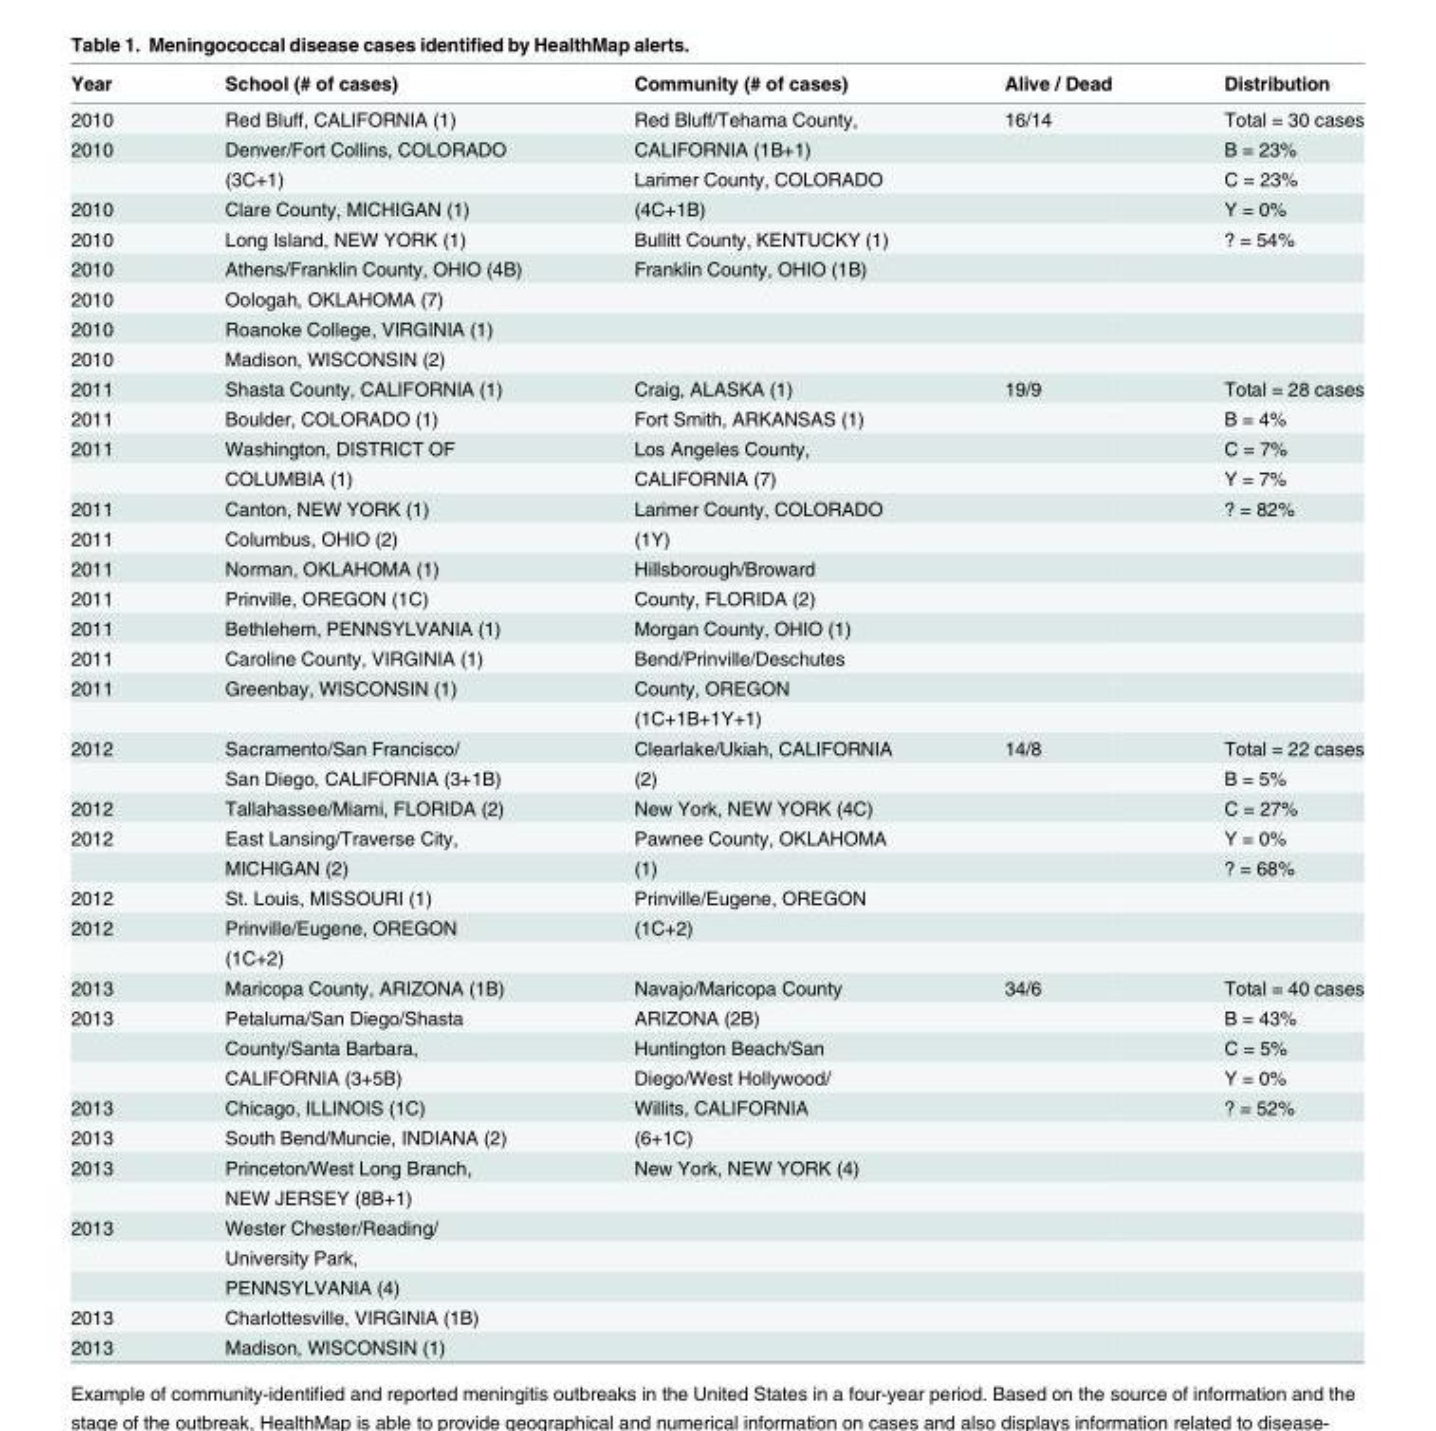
<table><thead><tr><td>Year</td><td>School (# of cases)</td><td>Community (# of cases)</td><td>Alive / Dead</td><td>Distribution</td></tr></thead><tbody><tr><td>2010</td><td>Red Bluff, CALIFORNIA (1)</td><td>Red Bluff/Tehama County,</td><td>16/14</td><td>Total = 30 cases</td></tr><tr><td rowspan="2">2010</td><td>Denver/Fort Collins, COLORADO</td><td>CALIFORNIA (1B+1)</td><td></td><td>B = 23%</td></tr><tr><td>(3C+1)</td><td>Larimer County, COLORADO</td><td></td><td>C = 23%</td></tr><tr><td>2010</td><td>Clare County, MICHIGAN (1)</td><td>(4C+1B)</td><td></td><td>Y = 0%</td></tr><tr><td>2010</td><td>Long Island, NEW YORK (1)</td><td>Bullitt County, KENTUCKY (1)</td><td></td><td>? = 54%</td></tr><tr><td>2010</td><td>Athens/Franklin County, OHIO (4B)</td><td>Franklin County, OHIO (1B)</td><td></td><td></td></tr><tr><td>2010</td><td>Oologah, OKLAHOMA (7)</td><td></td><td></td><td></td></tr><tr><td>2010</td><td>Roanoke College, VIRGINIA (1)</td><td></td><td></td><td></td></tr><tr><td>2010</td><td>Madison, WISCONSIN (2)</td><td></td><td></td><td></td></tr><tr><td>2011</td><td>Shasta County, CALIFORNIA (1)</td><td>Craig, ALASKA (1)</td><td>19/9</td><td>Total = 28 cases</td></tr><tr><td>2011</td><td>Boulder, COLORADO (1)</td><td>Fort Smith, ARKANSAS (1)</td><td></td><td>B = 4%</td></tr><tr><td rowspan="2">2011</td><td>Washington, DISTRICT OF</td><td>Los Angeles County,</td><td></td><td>C = 7%</td></tr><tr><td>COLUMBIA (1)</td><td>CALIFORNIA (7)</td><td></td><td>Y = 7%</td></tr><tr><td>2011</td><td>Canton, NEW YORK (1)</td><td>Larimer County, COLORADO</td><td></td><td>? = 82%</td></tr><tr><td>2011</td><td>Columbus, OHIO (2)</td><td>(1Y)</td><td></td><td></td></tr><tr><td>2011</td><td>Norman, OKLAHOMA (1)</td><td>Hillsborough/Broward</td><td></td><td></td></tr><tr><td>2011</td><td>Prinville, OREGON (1C)</td><td>County, FLORIDA (2)</td><td></td><td></td></tr><tr><td>2011</td><td>Bethlehem, PENNSYLVANIA (1)</td><td>Morgan County, OHIO (1)</td><td></td><td></td></tr><tr><td>2011</td><td>Caroline County, VIRGINIA (1)</td><td>Bend/Prinville/Deschutes</td><td></td><td></td></tr><tr><td rowspan="2">2011</td><td>Greenbay, WISCONSIN (1)</td><td>County, OREGON</td><td></td><td></td></tr><tr><td></td><td>(1C+1B+1Y+1)</td><td></td><td></td></tr><tr><td rowspan="2">2012</td><td>Sacramento/San Francisco/</td><td>Clearlake/Ukiah, CALIFORNIA</td><td>14/8</td><td>Total = 22 cases</td></tr><tr><td>San Diego, CALIFORNIA (3+1B)</td><td>(2)</td><td></td><td>B = 5%</td></tr><tr><td>2012</td><td>Tallahassee/Miami, FLORIDA (2)</td><td>New York, NEW YORK (4C)</td><td></td><td>C = 27%</td></tr><tr><td rowspan="2">2012</td><td>East Lansing/Traverse City,</td><td>Pawnee County, OKLAHOMA</td><td></td><td>Y = 0%</td></tr><tr><td>MICHIGAN (2)</td><td>(1)</td><td></td><td>? = 68%</td></tr><tr><td>2012</td><td>St. Louis, MISSOURI (1)</td><td>Prinville/Eugene, OREGON</td><td></td><td></td></tr><tr><td rowspan="2">2012</td><td>Prinville/Eugene, OREGON</td><td>(1C+2)</td><td></td><td></td></tr><tr><td>(1C+2)</td><td></td><td></td><td></td></tr><tr><td>2013</td><td>Maricopa County, ARIZONA (1B)</td><td>Navajo/Maricopa County</td><td>34/6</td><td>Total = 40 cases</td></tr><tr><td rowspan="3">2013</td><td>Petaluma/San Diego/Shasta</td><td>ARIZONA (2B)</td><td></td><td>B = 43%</td></tr><tr><td>County/Santa Barbara,</td><td>Huntington Beach/San</td><td></td><td>C = 5%</td></tr><tr><td>CALIFORNIA (3+5B)</td><td>Diego/West Hollywood/</td><td></td><td>Y = 0%</td></tr><tr><td>2013</td><td>Chicago, ILLINOIS (1C)</td><td>Willits, CALIFORNIA</td><td></td><td>? = 52%</td></tr><tr><td>2013</td><td>South Bend/Muncie, INDIANA (2)</td><td>(6+1C)</td><td></td><td></td></tr><tr><td rowspan="2">2013</td><td>Princeton/West Long Branch,</td><td>New York, NEW YORK (4)</td><td></td><td></td></tr><tr><td>NEW JERSEY (8B+1)</td><td></td><td></td><td></td></tr><tr><td rowspan="3">2013</td><td>Wester Chester/Reading/</td><td></td><td></td><td></td></tr><tr><td>University Park,</td><td></td><td></td><td></td></tr><tr><td>PENNSYLVANIA (4)</td><td></td><td></td><td></td></tr><tr><td>2013</td><td>Charlottesville, VIRGINIA (1B)</td><td></td><td></td><td></td></tr><tr><td>2013</td><td>Madison, WISCONSIN (1)</td><td></td><td></td><td></td></tr></tbody></table>